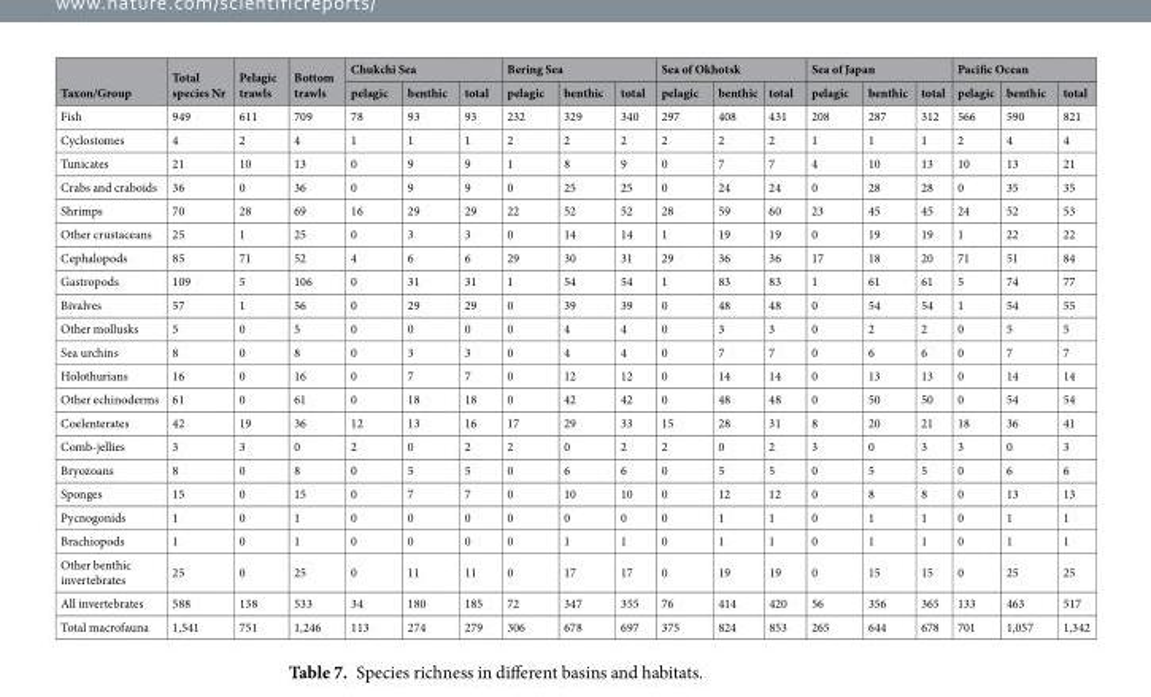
<table><thead><tr><td rowspan="2">Taxon/Group</td><td rowspan="2">Total species Nr</td><td rowspan="2">Pelagic trawls</td><td rowspan="2">Bottom trawls</td><td colspan="3">Chukchi Sea</td><td colspan="3">Bering Sea</td><td colspan="3">Sea of Okhotsk</td><td colspan="3">Sea of Japan</td><td colspan="3">Pacific Ocean</td></tr><tr><td>pelagic</td><td>benthic</td><td>total</td><td>pelagic</td><td>benthic</td><td>total</td><td>pelagic</td><td>benthic</td><td>total</td><td>pelagic</td><td>benthic</td><td>total</td><td>pelagic</td><td>benthic</td><td>total</td></tr></thead><tbody><tr><td>Fish</td><td>949</td><td>611</td><td>709</td><td>78</td><td>93</td><td>93</td><td>232</td><td>329</td><td>340</td><td>297</td><td>408</td><td>431</td><td>208</td><td>287</td><td>312</td><td>566</td><td>590</td><td>821</td></tr><tr><td>Cyclostomes</td><td>4</td><td>2</td><td>4</td><td>1</td><td>1</td><td>1</td><td>2</td><td>2</td><td>2</td><td>2</td><td>2</td><td>2</td><td>1</td><td>1</td><td>1</td><td>2</td><td>4</td><td>4</td></tr><tr><td>Tunicates</td><td>21</td><td>10</td><td>13</td><td>0</td><td>9</td><td>9</td><td>1</td><td>8</td><td>9</td><td>0</td><td>7</td><td>7</td><td>4</td><td>10</td><td>13</td><td>10</td><td>13</td><td>21</td></tr><tr><td>Crabs and craboids</td><td>36</td><td>0</td><td>36</td><td>0</td><td>9</td><td>9</td><td>0</td><td>25</td><td>25</td><td>0</td><td>24</td><td>24</td><td>0</td><td>28</td><td>28</td><td>0</td><td>35</td><td>35</td></tr><tr><td>Shrimps</td><td>70</td><td>28</td><td>69</td><td>16</td><td>29</td><td>29</td><td>22</td><td>52</td><td>52</td><td>28</td><td>59</td><td>60</td><td>23</td><td>45</td><td>45</td><td>24</td><td>52</td><td>53</td></tr><tr><td>Other crustaceans</td><td>25</td><td>1</td><td>25</td><td>0</td><td>3</td><td>3</td><td>0</td><td>14</td><td>14</td><td>1</td><td>19</td><td>19</td><td>0</td><td>19</td><td>19</td><td>1</td><td>22</td><td>22</td></tr><tr><td>Cephalopods</td><td>85</td><td>71</td><td>52</td><td>4</td><td>6</td><td>6</td><td>29</td><td>30</td><td>31</td><td>29</td><td>36</td><td>36</td><td>17</td><td>18</td><td>20</td><td>71</td><td>51</td><td>84</td></tr><tr><td>Gastropods</td><td>109</td><td>5</td><td>106</td><td>0</td><td>31</td><td>31</td><td>1</td><td>54</td><td>54</td><td>1</td><td>83</td><td>83</td><td>1</td><td>61</td><td>61</td><td>5</td><td>74</td><td>77</td></tr><tr><td>Bivalves</td><td>57</td><td>1</td><td>56</td><td>0</td><td>29</td><td>29</td><td>0</td><td>39</td><td>39</td><td>0</td><td>48</td><td>48</td><td>0</td><td>54</td><td>54</td><td>1</td><td>54</td><td>55</td></tr><tr><td>Other mollusks</td><td>5</td><td>0</td><td>5</td><td>0</td><td>0</td><td>0</td><td>0</td><td>4</td><td>4</td><td>0</td><td>3</td><td>3</td><td>0</td><td>2</td><td>2</td><td>0</td><td>5</td><td>5</td></tr><tr><td>Sea urchins</td><td>8</td><td>0</td><td>8</td><td>0</td><td>3</td><td>3</td><td>0</td><td>4</td><td>4</td><td>0</td><td>7</td><td>7</td><td>0</td><td>6</td><td>6</td><td>0</td><td>7</td><td>7</td></tr><tr><td>Holothurians</td><td>16</td><td>0</td><td>16</td><td>0</td><td>7</td><td>7</td><td>0</td><td>12</td><td>12</td><td>0</td><td>14</td><td>14</td><td>0</td><td>13</td><td>13</td><td>0</td><td>14</td><td>14</td></tr><tr><td>Other echinoderms</td><td>61</td><td>0</td><td>61</td><td>0</td><td>18</td><td>18</td><td>0</td><td>42</td><td>42</td><td>0</td><td>48</td><td>48</td><td>0</td><td>50</td><td>50</td><td>0</td><td>54</td><td>54</td></tr><tr><td>Coelenterates</td><td>42</td><td>19</td><td>36</td><td>12</td><td>13</td><td>16</td><td>17</td><td>29</td><td>33</td><td>15</td><td>28</td><td>31</td><td>8</td><td>20</td><td>21</td><td>18</td><td>36</td><td>41</td></tr><tr><td>Comb-jellies</td><td>3</td><td>3</td><td>0</td><td>2</td><td>0</td><td>2</td><td>2</td><td>0</td><td>2</td><td>2</td><td>0</td><td>2</td><td>3</td><td>0</td><td>3</td><td>3</td><td>0</td><td>3</td></tr><tr><td>Bryozoans</td><td>8</td><td>0</td><td>8</td><td>0</td><td>5</td><td>5</td><td>0</td><td>6</td><td>6</td><td>0</td><td>5</td><td>5</td><td>0</td><td>5</td><td>5</td><td>0</td><td>6</td><td>6</td></tr><tr><td>Sponges</td><td>15</td><td>0</td><td>15</td><td>0</td><td>7</td><td>7</td><td>0</td><td>10</td><td>10</td><td>0</td><td>12</td><td>12</td><td>0</td><td>8</td><td>8</td><td>0</td><td>13</td><td>13</td></tr><tr><td>Pycnogonids</td><td>1</td><td>0</td><td>1</td><td>0</td><td>0</td><td>0</td><td>0</td><td>0</td><td>0</td><td>0</td><td>1</td><td>1</td><td>0</td><td>1</td><td>1</td><td>0</td><td>1</td><td>1</td></tr><tr><td>Brachiopods</td><td>1</td><td>0</td><td>1</td><td>0</td><td>0</td><td>0</td><td>0</td><td>1</td><td>1</td><td>0</td><td>1</td><td>1</td><td>0</td><td>1</td><td>1</td><td>0</td><td>1</td><td>1</td></tr><tr><td>Other benthic invertebrates</td><td>25</td><td>0</td><td>25</td><td>0</td><td>11</td><td>11</td><td>0</td><td>17</td><td>17</td><td>0</td><td>19</td><td>19</td><td>0</td><td>15</td><td>15</td><td>0</td><td>25</td><td>25</td></tr><tr><td>All invertebrates</td><td>588</td><td>138</td><td>533</td><td>34</td><td>180</td><td>185</td><td>72</td><td>347</td><td>355</td><td>76</td><td>414</td><td>420</td><td>56</td><td>356</td><td>365</td><td>133</td><td>463</td><td>517</td></tr><tr><td>Total macrofauna</td><td>1,541</td><td>751</td><td>1,246</td><td>113</td><td>274</td><td>279</td><td>306</td><td>678</td><td>697</td><td>375</td><td>824</td><td>853</td><td>265</td><td>644</td><td>678</td><td>701</td><td>1,057</td><td>1,342</td></tr></tbody></table>